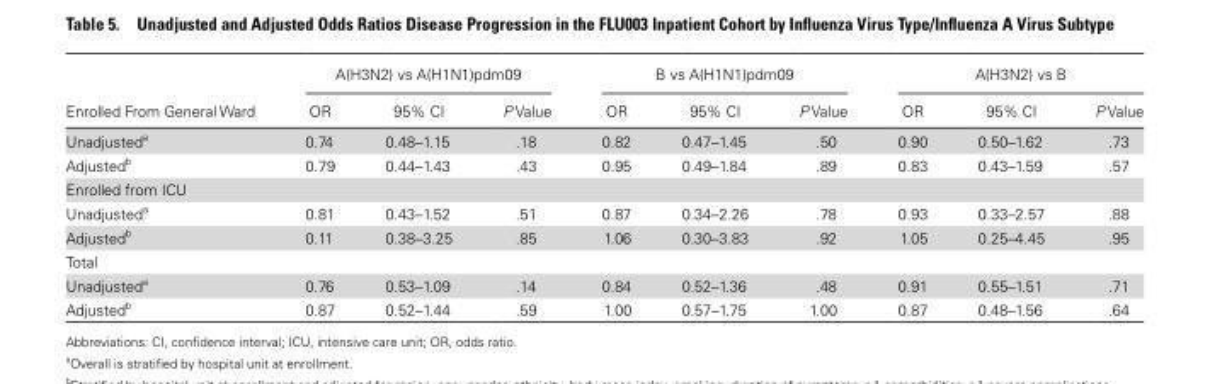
<table><thead><tr><td rowspan="2">Enrolled From General Ward</td><td colspan="3">A(H3N2) vs A(H1N1)pdm09</td><td colspan="3">B vs A(H1N1)pdm09</td><td colspan="3">A(H3N2) vs B</td></tr><tr><td>OR</td><td>95% CI</td><td>P Value</td><td>OR</td><td>95% CI</td><td>P Value</td><td>OR</td><td>95% CI</td><td>P Value</td></tr></thead><tbody><tr><td>Unadjusted<sup>a</sup></td><td>0.74</td><td>0.48–1.15</td><td>.18</td><td>0.82</td><td>0.47–1.45</td><td>.50</td><td>0.90</td><td>0.50–1.62</td><td>.73</td></tr><tr><td>Adjusted<sup>b</sup></td><td>0.79</td><td>0.44–1.43</td><td>.43</td><td>0.95</td><td>0.49–1.84</td><td>.89</td><td>0.83</td><td>0.43–1.59</td><td>.57</td></tr><tr><td colspan="10">Enrolled from ICU</td></tr><tr><td>Unadjusted<sup>a</sup></td><td>0.81</td><td>0.43–1.52</td><td>.51</td><td>0.87</td><td>0.34–2.26</td><td>.78</td><td>0.93</td><td>0.33–2.57</td><td>.88</td></tr><tr><td>Adjusted<sup>b</sup></td><td>0.11</td><td>0.38–3.25</td><td>.85</td><td>1.06</td><td>0.30–3.83</td><td>.92</td><td>1.05</td><td>0.25–4.45</td><td>.95</td></tr><tr><td colspan="10">Total</td></tr><tr><td>Unadjusted<sup>a</sup></td><td>0.76</td><td>0.53–1.09</td><td>.14</td><td>0.84</td><td>0.52–1.36</td><td>.48</td><td>0.91</td><td>0.55–1.51</td><td>.71</td></tr><tr><td>Adjusted<sup>b</sup></td><td>0.87</td><td>0.52–1.44</td><td>.59</td><td>1.00</td><td>0.57–1.75</td><td>1.00</td><td>0.87</td><td>0.48–1.56</td><td>.64</td></tr></tbody></table>